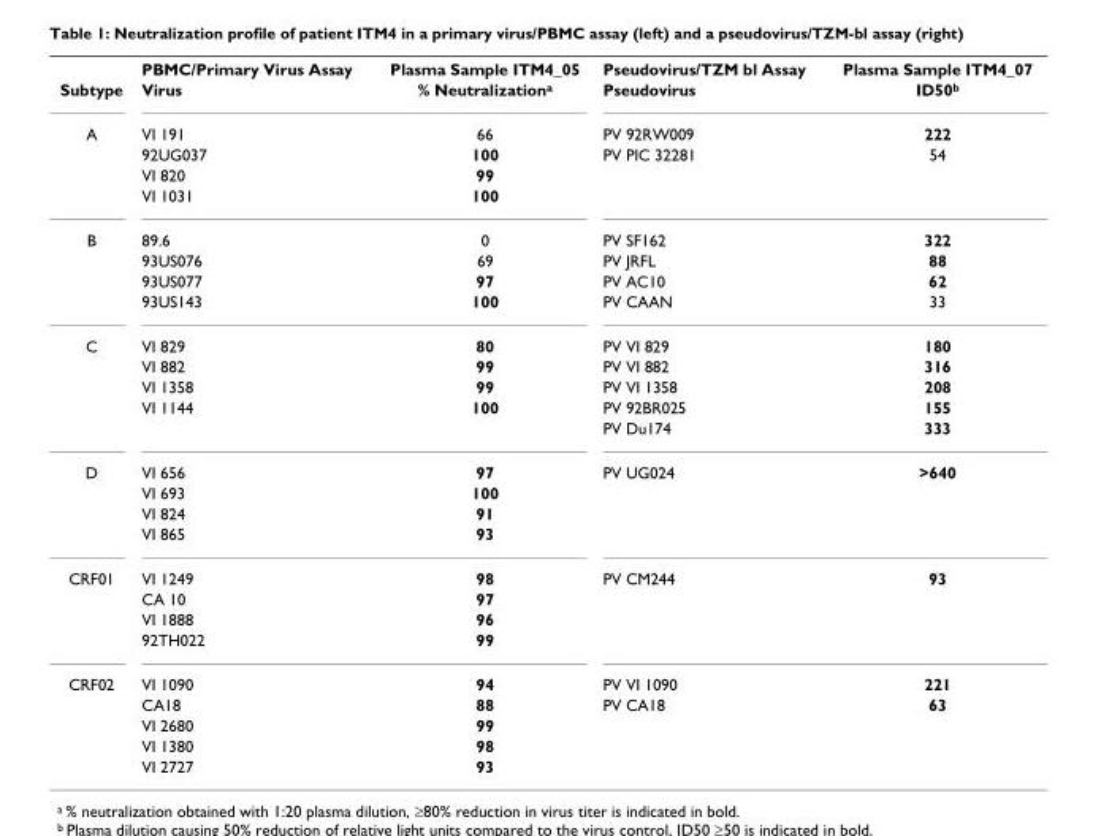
<table><thead><tr><td></td><td>PBMC/Primary Virus Assay</td><td>Plasma Sample ITM4_05</td><td>Pseudovirus/TZM bl Assay</td><td>Plasma Sample ITM4_07</td></tr></thead><tbody><tr><td>Subtype</td><td>Virus</td><td>% Neutralization<sup>a</sup></td><td>Pseudovirus</td><td>ID50<sup>b</sup></td></tr><tr><td rowspan="4">A</td><td>VI 191</td><td>66</td><td>PV 92RW009</td><td>222</td></tr><tr><td>92UG037</td><td>100</td><td>PV PIC 32281</td><td>54</td></tr><tr><td>VI 820</td><td>99</td><td></td><td></td></tr><tr><td>VI 1031</td><td>100</td><td></td><td></td></tr><tr><td rowspan="4">B</td><td>89.6</td><td>0</td><td>PV SF162</td><td>322</td></tr><tr><td>93US076</td><td>69</td><td>PV JRFL</td><td>88</td></tr><tr><td>93US077</td><td>97</td><td>PV AC10</td><td>62</td></tr><tr><td>93US143</td><td>100</td><td>PV CAAN</td><td>33</td></tr><tr><td rowspan="5">C</td><td>VI 829</td><td>80</td><td>PV VI 829</td><td>180</td></tr><tr><td>VI 882</td><td>99</td><td>PV VI 882</td><td>316</td></tr><tr><td>VI 1358</td><td>99</td><td>PV VI 1358</td><td>208</td></tr><tr><td>VI 1144</td><td>100</td><td>PV 92BR025</td><td>155</td></tr><tr><td></td><td></td><td>PV Du174</td><td>333</td></tr><tr><td rowspan="4">D</td><td>VI 656</td><td>97</td><td>PV UG024</td><td>&gt;640</td></tr><tr><td>VI 693</td><td>100</td><td></td><td></td></tr><tr><td>VI 824</td><td>91</td><td></td><td></td></tr><tr><td>VI 865</td><td>93</td><td></td><td></td></tr><tr><td rowspan="4">CRF01</td><td>VI 1249</td><td>98</td><td>PV CM244</td><td>93</td></tr><tr><td>CA 10</td><td>97</td><td></td><td></td></tr><tr><td>VI 1888</td><td>96</td><td></td><td></td></tr><tr><td>92TH022</td><td>99</td><td></td><td></td></tr><tr><td rowspan="5">CRF02</td><td>VI 1090</td><td>94</td><td>PV VI 1090</td><td>221</td></tr><tr><td>CA18</td><td>88</td><td>PV CA18</td><td>63</td></tr><tr><td>VI 2680</td><td>99</td><td></td><td></td></tr><tr><td>VI 1380</td><td>98</td><td></td><td></td></tr><tr><td>VI 2727</td><td>93</td><td></td><td></td></tr></tbody></table>